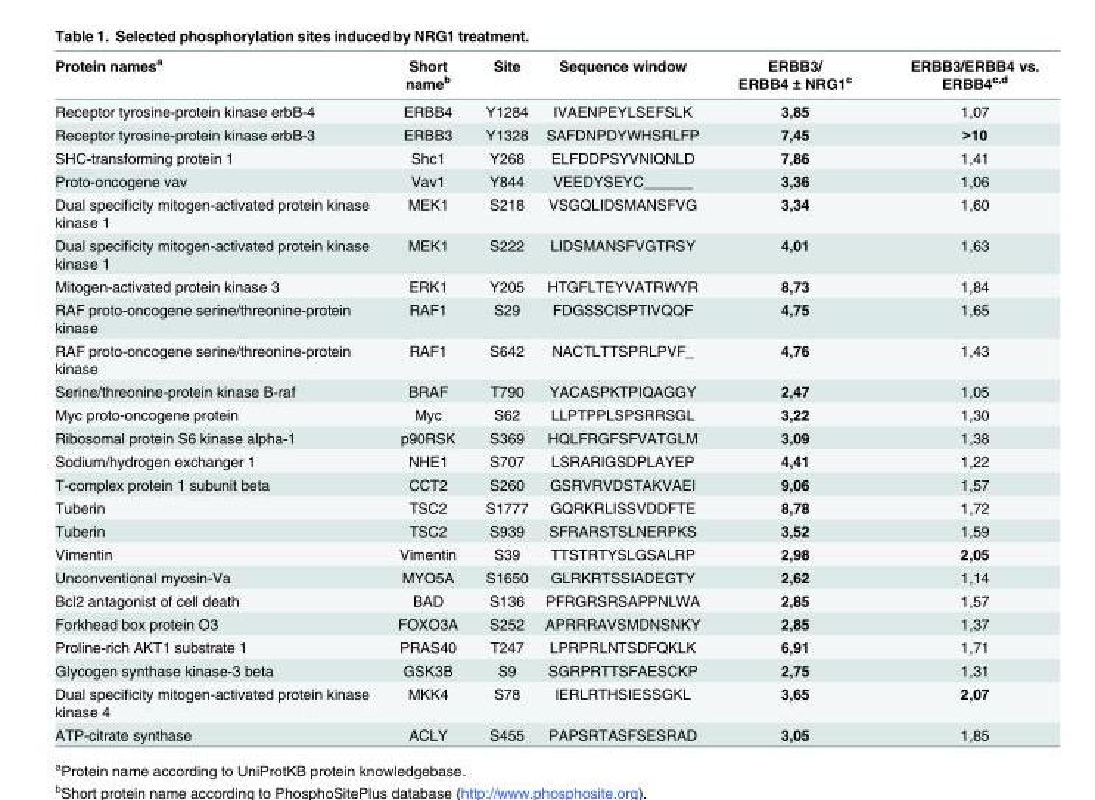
<table><thead><tr><td>Protein names<sup>a</sup></td><td>Short name<sup>b</sup></td><td>Site</td><td>Sequence window</td><td>ERBB3/ ERBB4 ± NRG1<sup>c</sup></td><td>ERBB3/ERBB4 vs. ERBB4<sup>c,d</sup></td></tr></thead><tbody><tr><td>Receptor tyrosine-protein kinase erbB-4</td><td>ERBB4</td><td>Y1284</td><td>IVAENPEYLSEFSLK</td><td>3,85</td><td>1,07</td></tr><tr><td>Receptor tyrosine-protein kinase erbB-3</td><td>ERBB3</td><td>Y1328</td><td>SAFDNPDYWHSRLFP</td><td>7,45</td><td>&gt;10</td></tr><tr><td>SHC-transforming protein 1</td><td>Shc1</td><td>Y268</td><td>ELFDDPSYVNIQNLD</td><td>7,86</td><td>1,41</td></tr><tr><td>Proto-oncogene vav</td><td>Vav1</td><td>Y844</td><td>VEEDYSEYC______</td><td>3,36</td><td>1,06</td></tr><tr><td>Dual specificity mitogen-activated protein kinase kinase 1</td><td>MEK1</td><td>S218</td><td>VSGQLIDSMANSFVG</td><td>3,34</td><td>1,60</td></tr><tr><td>Dual specificity mitogen-activated protein kinase kinase 1</td><td>MEK1</td><td>S222</td><td>LIDSMANSFVGTRSY</td><td>4,01</td><td>1,63</td></tr><tr><td>Mitogen-activated protein kinase 3</td><td>ERK1</td><td>Y205</td><td>HTGFLTEYVATRWYR</td><td>8,73</td><td>1,84</td></tr><tr><td>RAF proto-oncogene serine/threonine-protein kinase</td><td>RAF1</td><td>S29</td><td>FDGSSCISPTIVQQF</td><td>4,75</td><td>1,65</td></tr><tr><td>RAF proto-oncogene serine/threonine-protein kinase</td><td>RAF1</td><td>S642</td><td>NACTLTTSPRLPVF_</td><td>4,76</td><td>1,43</td></tr><tr><td>Serine/threonine-protein kinase B-raf</td><td>BRAF</td><td>T790</td><td>YACASPKTPIQAGGY</td><td>2,47</td><td>1,05</td></tr><tr><td>Myc proto-oncogene protein</td><td>Myc</td><td>S62</td><td>LLPTPPLSPSRRSGL</td><td>3,22</td><td>1,30</td></tr><tr><td>Ribosomal protein S6 kinase alpha-1</td><td>p90RSK</td><td>S369</td><td>HQLFRGFSFVATGLM</td><td>3,09</td><td>1,38</td></tr><tr><td>Sodium/hydrogen exchanger 1</td><td>NHE1</td><td>S707</td><td>LSRARIGSDPLAYEP</td><td>4,41</td><td>1,22</td></tr><tr><td>T-complex protein 1 subunit beta</td><td>CCT2</td><td>S260</td><td>GSRVRVDSTAKVAEI</td><td>9,06</td><td>1,57</td></tr><tr><td>Tuberin</td><td>TSC2</td><td>S1777</td><td>GQRKRLISSVDDFTE</td><td>8,78</td><td>1,72</td></tr><tr><td>Tuberin</td><td>TSC2</td><td>S939</td><td>SFRARSTSLNERPKS</td><td>3,52</td><td>1,59</td></tr><tr><td>Vimentin</td><td>Vimentin</td><td>S39</td><td>TTSTRTYSLGSALRP</td><td>2,98</td><td>2,05</td></tr><tr><td>Unconventional myosin-Va</td><td>MYO5A</td><td>S1650</td><td>GLRKRTSSIADEGTY</td><td>2,62</td><td>1,14</td></tr><tr><td>Bcl2 antagonist of cell death</td><td>BAD</td><td>S136</td><td>PFRGRSRSAPPNLWA</td><td>2,85</td><td>1,57</td></tr><tr><td>Forkhead box protein O3</td><td>FOXO3A</td><td>S252</td><td>APRRRAVSMDNSNKY</td><td>2,85</td><td>1,37</td></tr><tr><td>Proline-rich AKT1 substrate 1</td><td>PRAS40</td><td>T247</td><td>LPRPRLNTSDFQKLK</td><td>6,91</td><td>1,71</td></tr><tr><td>Glycogen synthase kinase-3 beta</td><td>GSK3B</td><td>S9</td><td>SGRPRTTSFAESCKP</td><td>2,75</td><td>1,31</td></tr><tr><td>Dual specificity mitogen-activated protein kinase kinase 4</td><td>MKK4</td><td>S78</td><td>IERLRTHSIESSGKL</td><td>3,65</td><td>2,07</td></tr><tr><td>ATP-citrate synthase</td><td>ACLY</td><td>S455</td><td>PAPSRTASFSESRAD</td><td>3,05</td><td>1,85</td></tr></tbody></table>